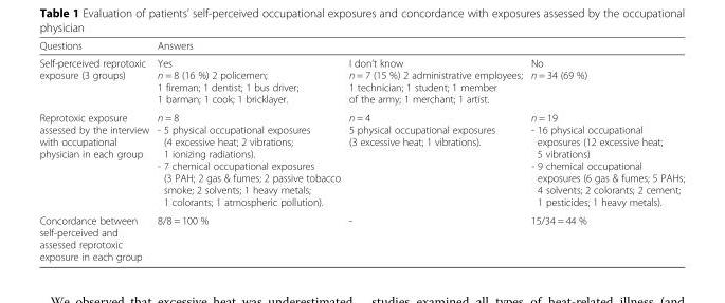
<table><thead><tr><td rowspan="2">Questions Self-perceived reprotoxic exposure (3 groups)</td><td colspan="3">Answers</td></tr><tr><td>Yes n = 8 (16 %) 2 policemen; 1 fireman; 1 dentist; 1 bus driver; 1 barman; 1 cook; 1 bricklayer.</td><td>I don’t know n = 7 (15 %) 2 administrative employees; 1 technician; 1 student; 1 member of the army; 1 merchant; 1 artist.</td><td>No n = 34 (69 %)</td></tr></thead><tbody><tr><td>Reprotoxic exposure assessed by the interview with occupational physician in each group</td><td>n = 8 - 5 physical occupational exposures (4 excessive heat; 2 vibrations; 1 ionizing radiations). - 7 chemical occupational exposures (3 PAH; 2 gas &amp; fumes; 2 passive tobacco smoke; 2 solvents; 1 heavy metals; 1 colorants; 1 atmospheric pollution).</td><td>n = 4 5 physical occupational exposures (3 excessive heat; 1 vibrations).</td><td>n = 19 - 16 physical occupational exposures (12 excessive heat; 5 vibrations) - 9 chemical occupational exposures (6 gas &amp; fumes; 5 PAHs; 4 solvents; 2 colorants; 2 cement; 1 pesticides; 1 heavy metals).</td></tr><tr><td>Concordance between self-perceived and assessed reprotoxic exposure in each group</td><td>8/8 = 100 %</td><td>-</td><td>15/34 = 44 %</td></tr></tbody></table>